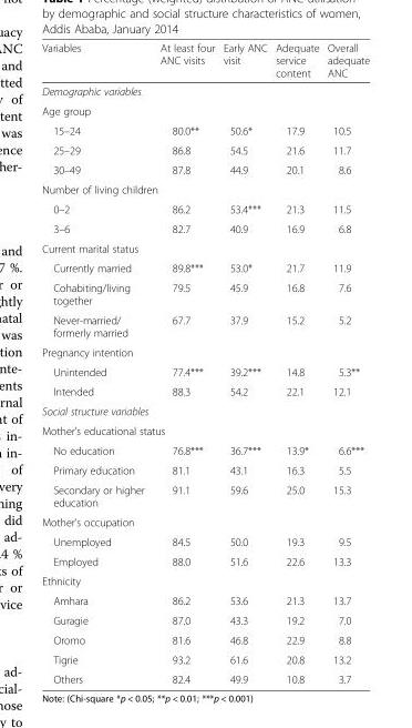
<table><thead><tr><td>Variables</td><td>At least four ANC visits</td><td>Early ANC visit</td><td>Adequate service content</td><td>Overall adequate ANC</td></tr></thead><tbody><tr><td colspan="5">Demographic variables</td></tr><tr><td colspan="5">Age group</td></tr><tr><td>15–24</td><td>80.0**</td><td>50.6*</td><td>17.9</td><td>10.5</td></tr><tr><td>25–29</td><td>86.8</td><td>54.5</td><td>21.6</td><td>11.7</td></tr><tr><td>30–49</td><td>87.8</td><td>44.9</td><td>20.1</td><td>8.6</td></tr><tr><td colspan="5">Number of living children</td></tr><tr><td>0–2</td><td>86.2</td><td>53.4***</td><td>21.3</td><td>11.5</td></tr><tr><td>3–6</td><td>82.7</td><td>40.9</td><td>16.9</td><td>6.8</td></tr><tr><td colspan="5">Current marital status</td></tr><tr><td>Currently married</td><td>89.8***</td><td>53.0*</td><td>21.7</td><td>11.9</td></tr><tr><td>Cohabiting/living together</td><td>79.5</td><td>45.9</td><td>16.8</td><td>7.6</td></tr><tr><td>Never-married/ formerly married</td><td>67.7</td><td>37.9</td><td>15.2</td><td>5.2</td></tr><tr><td colspan="5">Pregnancy intention</td></tr><tr><td>Unintended</td><td>77.4***</td><td>39.2***</td><td>14.8</td><td>5.3**</td></tr><tr><td>Intended</td><td>88.3</td><td>54.2</td><td>22.1</td><td>12.1</td></tr><tr><td colspan="5">Social structure variables</td></tr><tr><td colspan="5">Mother’s educational status</td></tr><tr><td>No education</td><td>76.8***</td><td>36.7***</td><td>13.9*</td><td>6.6***</td></tr><tr><td>Primary education</td><td>81.1</td><td>43.1</td><td>16.3</td><td>5.5</td></tr><tr><td>Secondary or higher education</td><td>91.1</td><td>59.6</td><td>25.0</td><td>15.3</td></tr><tr><td colspan="5">Mother’s occupation</td></tr><tr><td>Unemployed</td><td>84.5</td><td>50.0</td><td>19.3</td><td>9.5</td></tr><tr><td>Employed</td><td>88.0</td><td>51.6</td><td>22.6</td><td>13.3</td></tr><tr><td colspan="5">Ethnicity</td></tr><tr><td>Amhara</td><td>86.2</td><td>53.6</td><td>21.3</td><td>13.7</td></tr><tr><td>Guragie</td><td>87.0</td><td>43.3</td><td>19.2</td><td>7.0</td></tr><tr><td>Oromo</td><td>81.6</td><td>46.8</td><td>22.9</td><td>8.8</td></tr><tr><td>Tigrie</td><td>93.2</td><td>61.6</td><td>20.8</td><td>13.2</td></tr><tr><td>Others</td><td>82.4</td><td>49.9</td><td>10.8</td><td>3.7</td></tr></tbody></table>